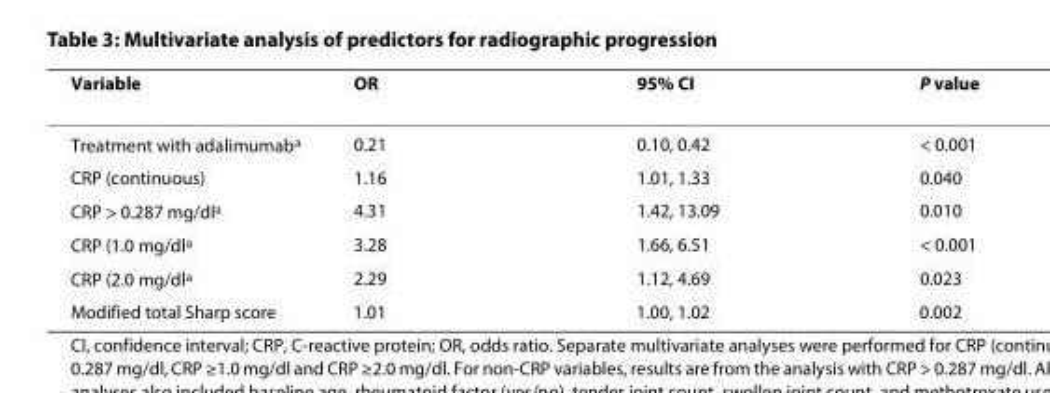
<table><thead><tr><td>Variable</td><td>OR</td><td>95% CI</td><td>P value</td></tr></thead><tbody><tr><td>Treatment with adalimumab<sup>a</sup></td><td>0.21</td><td>0.10, 0.42</td><td>&lt; 0.001</td></tr><tr><td>CRP (continuous)</td><td>1.16</td><td>1.01, 1.33</td><td>0.040</td></tr><tr><td>CRP &gt; 0.287 mg/dl<sup>a</sup></td><td>4.31</td><td>1.42, 13.09</td><td>0.010</td></tr><tr><td>CRP (1.0 mg/dl<sup>a</sup></td><td>3.28</td><td>1.66, 6.51</td><td>&lt; 0.001</td></tr><tr><td>CRP (2.0 mg/dl<sup>a</sup></td><td>2.29</td><td>1.12, 4.69</td><td>0.023</td></tr><tr><td>Modified total Sharp score</td><td>1.01</td><td>1.00, 1.02</td><td>0.002</td></tr></tbody></table>